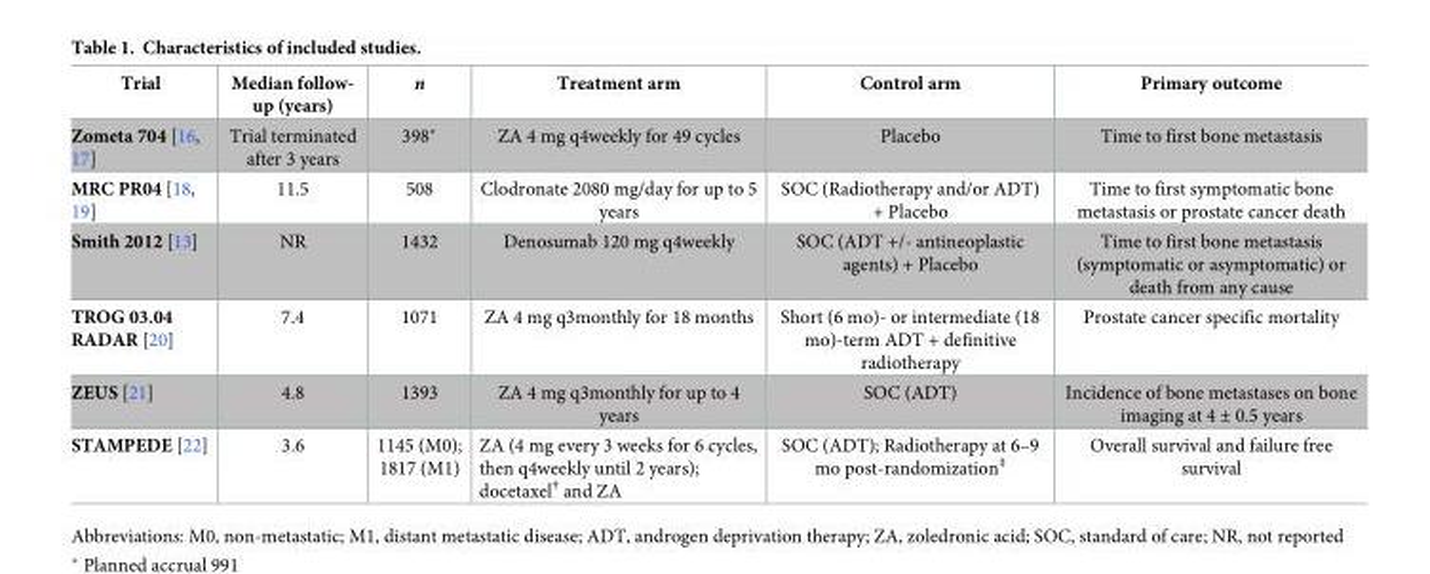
<table><thead><tr><td>Trial</td><td>Median follow- up (years)</td><td>n</td><td>Treatment arm</td><td>Control arm</td><td>Primary outcome</td></tr></thead><tbody><tr><td>Zometa 704 [16, 17]</td><td>Trial terminated after 3 years</td><td>398*</td><td>ZA 4 mg q4weekly for 49 cycles</td><td>Placebo</td><td>Time to first bone metastasis</td></tr><tr><td>MRC PR04 [18, 19]</td><td>11.5</td><td>508</td><td>Clodronate 2080 mg/day for up to 5 years</td><td>SOC (Radiotherapy and/or ADT) + Placebo</td><td>Time to first symptomatic bone metastasis or prostate cancer death</td></tr><tr><td>Smith 2012 [13]</td><td>NR</td><td>1432</td><td>Denosumab 120 mg q4weekly</td><td>SOC (ADT +/- antineoplastic agents) + Placebo</td><td>Time to first bone metastasis (symptomatic or asymptomatic) or death from any cause</td></tr><tr><td>TROG 03.04 RADAR [20]</td><td>7.4</td><td>1071</td><td>ZA 4 mg q3monthly for 18 months</td><td>Short (6 mo)- or intermediate (18 mo)-term ADT + definitive radiotherapy</td><td>Prostate cancer specific mortality</td></tr><tr><td>ZEUS [21]</td><td>4.8</td><td>1393</td><td>ZA 4 mg q3monthly for up to 4 years</td><td>SOC (ADT)</td><td>Incidence of bone metastases on bone imaging at 4 ± 0.5 years</td></tr><tr><td>STAMPEDE [22]</td><td>3.6</td><td>1145 (M0); 1817 (M1)</td><td>ZA (4 mg every 3 weeks for 6 cycles, then q4weekly until 2 years); docetaxel<sup>†</sup> and ZA</td><td>SOC (ADT); Radiotherapy at 6–9 mo post-randomization<sup>‡</sup></td><td>Overall survival and failure free survival</td></tr></tbody></table>